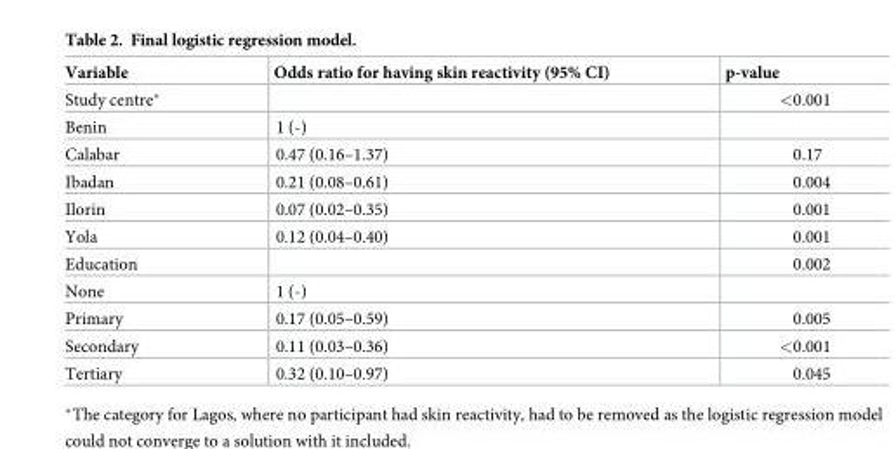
<table><thead><tr><td>Variable</td><td>Odds ratio for having skin reactivity (95% CI)</td><td>p-value</td></tr></thead><tbody><tr><td>Study centre*</td><td></td><td>&lt;0.001</td></tr><tr><td>Benin</td><td>1 (-)</td><td></td></tr><tr><td>Calabar</td><td>0.47 (0.16–1.37)</td><td>0.17</td></tr><tr><td>Ibadan</td><td>0.21 (0.08–0.61)</td><td>0.004</td></tr><tr><td>Ilorin</td><td>0.07 (0.02–0.35)</td><td>0.001</td></tr><tr><td>Yola</td><td>0.12 (0.04–0.40)</td><td>0.001</td></tr><tr><td>Education</td><td></td><td>0.002</td></tr><tr><td>None</td><td>1 (-)</td><td></td></tr><tr><td>Primary</td><td>0.17 (0.05–0.59)</td><td>0.005</td></tr><tr><td>Secondary</td><td>0.11 (0.03–0.36)</td><td>&lt;0.001</td></tr><tr><td>Tertiary</td><td>0.32 (0.10–0.97)</td><td>0.045</td></tr></tbody></table>